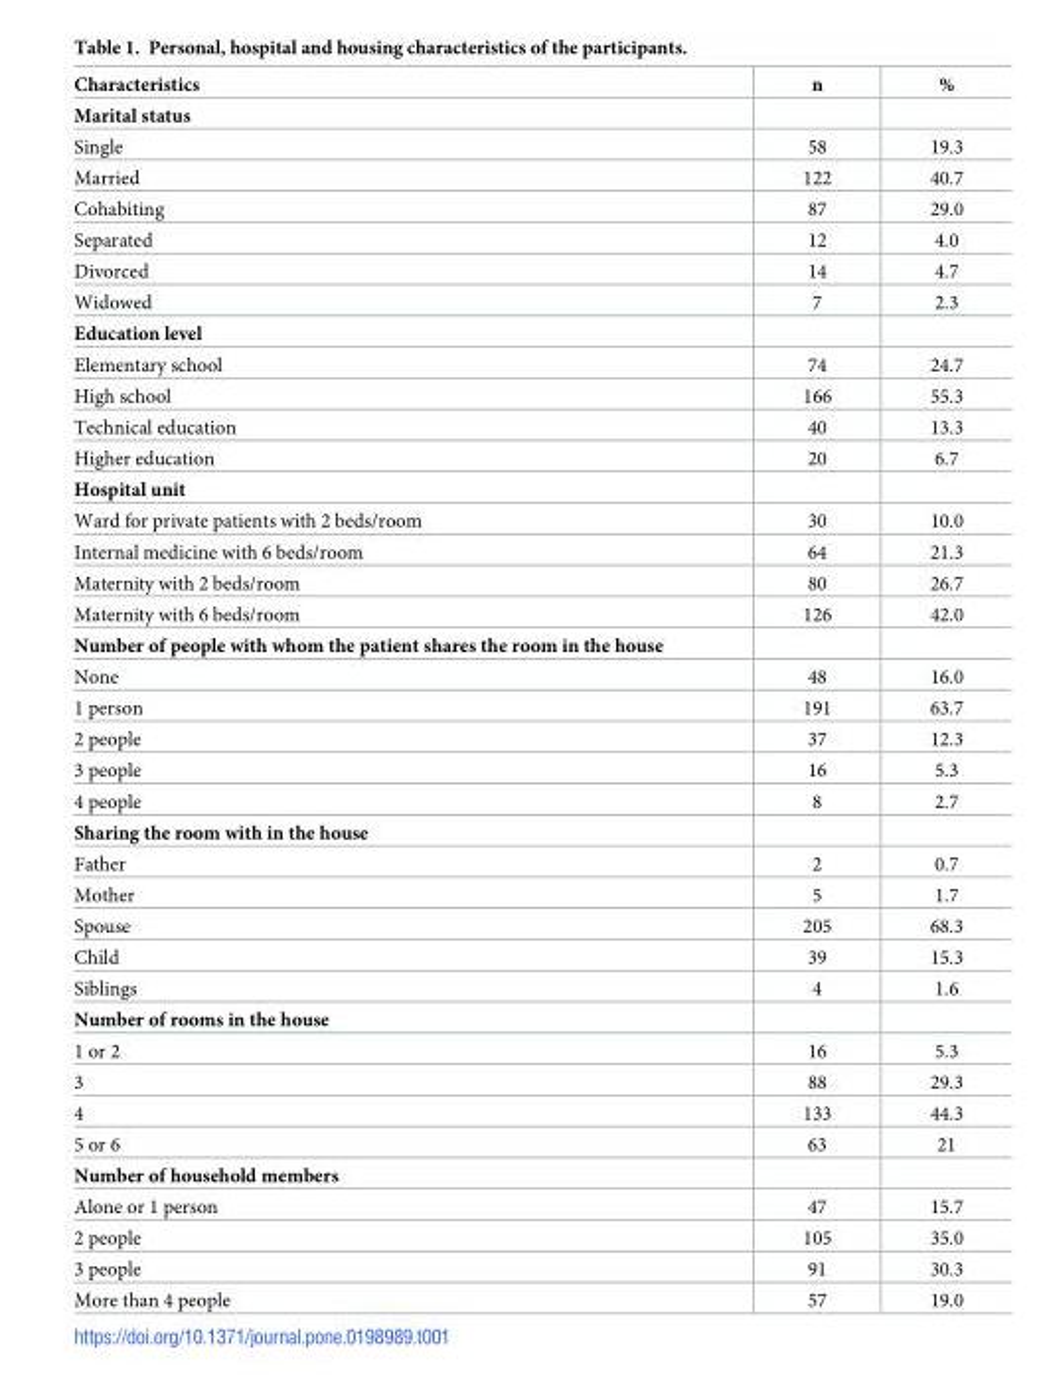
<table><thead><tr><td>Characteristics</td><td>n</td><td>%</td></tr></thead><tbody><tr><td colspan="3">Marital status</td></tr><tr><td>Single</td><td>58</td><td>19.3</td></tr><tr><td>Married</td><td>122</td><td>40.7</td></tr><tr><td>Cohabiting</td><td>87</td><td>29.0</td></tr><tr><td>Separated</td><td>12</td><td>4.0</td></tr><tr><td>Divorced</td><td>14</td><td>4.7</td></tr><tr><td>Widowed</td><td>7</td><td>2.3</td></tr><tr><td colspan="3">Education level</td></tr><tr><td>Elementary school</td><td>74</td><td>24.7</td></tr><tr><td>High school</td><td>166</td><td>55.3</td></tr><tr><td>Technical education</td><td>40</td><td>13.3</td></tr><tr><td>Higher education</td><td>20</td><td>6.7</td></tr><tr><td colspan="3">Hospital unit</td></tr><tr><td>Ward for private patients with 2 beds/room</td><td>30</td><td>10.0</td></tr><tr><td>Internal medicine with 6 beds/room</td><td>64</td><td>21.3</td></tr><tr><td>Maternity with 2 beds/room</td><td>80</td><td>26.7</td></tr><tr><td>Maternity with 6 beds/room</td><td>126</td><td>42.0</td></tr><tr><td colspan="3">Number of people with whom the patient shares the room in the house</td></tr><tr><td>None</td><td>48</td><td>16.0</td></tr><tr><td>1 person</td><td>191</td><td>63.7</td></tr><tr><td>2 people</td><td>37</td><td>12.3</td></tr><tr><td>3 people</td><td>16</td><td>5.3</td></tr><tr><td>4 people</td><td>8</td><td>2.7</td></tr><tr><td colspan="3">Sharing the room with in the house</td></tr><tr><td>Father</td><td>2</td><td>0.7</td></tr><tr><td>Mother</td><td>5</td><td>1.7</td></tr><tr><td>Spouse</td><td>205</td><td>68.3</td></tr><tr><td>Child</td><td>39</td><td>15.3</td></tr><tr><td>Siblings</td><td>4</td><td>1.6</td></tr><tr><td colspan="3">Number of rooms in the house</td></tr><tr><td>1 or 2</td><td>16</td><td>5.3</td></tr><tr><td>3</td><td>88</td><td>29.3</td></tr><tr><td>4</td><td>133</td><td>44.3</td></tr><tr><td>5 or 6</td><td>63</td><td>21</td></tr><tr><td colspan="3">Number of household members</td></tr><tr><td>Alone or 1 person</td><td>47</td><td>15.7</td></tr><tr><td>2 people</td><td>105</td><td>35.0</td></tr><tr><td>3 people</td><td>91</td><td>30.3</td></tr><tr><td>More than 4 people</td><td>57</td><td>19.0</td></tr></tbody></table>